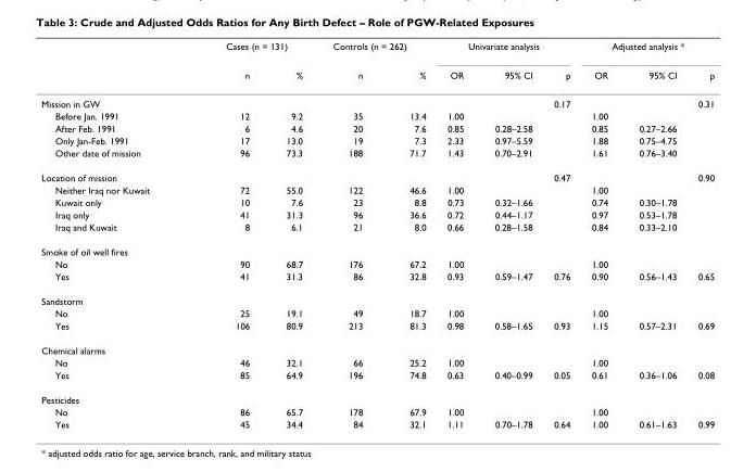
<table><thead><tr><td rowspan="2"></td><td colspan="2">Cases (n = 131)</td><td colspan="2">Controls (n = 262)</td><td colspan="3">Univariate analysis</td><td colspan="3">Adjusted analysis *</td></tr><tr><td>n</td><td>%</td><td>n</td><td>%</td><td>OR</td><td>95% CI</td><td>p</td><td>OR</td><td>95% CI</td><td>p</td></tr></thead><tbody><tr><td>Mission in GW</td><td></td><td></td><td></td><td></td><td></td><td></td><td>0.17</td><td></td><td></td><td>0.31</td></tr><tr><td>Before Jan. 1991</td><td>12</td><td>9.2</td><td>35</td><td>13.4</td><td>1.00</td><td></td><td></td><td>1.00</td><td></td><td></td></tr><tr><td>After Feb. 1991</td><td>6</td><td>4.6</td><td>20</td><td>7.6</td><td>0.85</td><td>0.28–2.58</td><td></td><td>0.85</td><td>0.27–2.66</td><td></td></tr><tr><td>Only Jan-Feb. 1991</td><td>17</td><td>13.0</td><td>19</td><td>7.3</td><td>2.33</td><td>0.97–5.59</td><td></td><td>1.88</td><td>0.75–4.75</td><td></td></tr><tr><td>Other date of mission</td><td>96</td><td>73.3</td><td>188</td><td>71.7</td><td>1.43</td><td>0.70–2.91</td><td></td><td>1.61</td><td>0.76–3.40</td><td></td></tr><tr><td>Location of mission</td><td></td><td></td><td></td><td></td><td></td><td></td><td>0.47</td><td></td><td></td><td>0.90</td></tr><tr><td>Neither Iraq nor Kuwait</td><td>72</td><td>55.0</td><td>122</td><td>46.6</td><td>1.00</td><td></td><td></td><td>1.00</td><td></td><td></td></tr><tr><td>Kuwait only</td><td>10</td><td>7.6</td><td>23</td><td>8.8</td><td>0.73</td><td>0.32–1.66</td><td></td><td>0.74</td><td>0.30–1.78</td><td></td></tr><tr><td>Iraq only</td><td>41</td><td>31.3</td><td>96</td><td>36.6</td><td>0.72</td><td>0.44–1.17</td><td></td><td>0.97</td><td>0.53–1.78</td><td></td></tr><tr><td>Iraq and Kuwait</td><td>8</td><td>6.1</td><td>21</td><td>8.0</td><td>0.66</td><td>0.28–1.58</td><td></td><td>0.84</td><td>0.33–2.10</td><td></td></tr><tr><td colspan="11">Smoke of oil well fires</td></tr><tr><td>No</td><td>90</td><td>68.7</td><td>176</td><td>67.2</td><td>1.00</td><td></td><td></td><td>1.00</td><td></td><td></td></tr><tr><td>Yes</td><td>41</td><td>31.3</td><td>86</td><td>32.8</td><td>0.93</td><td>0.59–1.47</td><td>0.76</td><td>0.90</td><td>0.56–1.43</td><td>0.65</td></tr><tr><td colspan="11">Sandstorm</td></tr><tr><td>No</td><td>25</td><td>19.1</td><td>49</td><td>18.7</td><td>1.00</td><td></td><td></td><td>1.00</td><td></td><td></td></tr><tr><td>Yes</td><td>106</td><td>80.9</td><td>213</td><td>81.3</td><td>0.98</td><td>0.58–1.65</td><td>0.93</td><td>1.15</td><td>0.57–2.31</td><td>0.69</td></tr><tr><td colspan="11">Chemical alarms</td></tr><tr><td>No</td><td>46</td><td>32.1</td><td>66</td><td>25.2</td><td>1.00</td><td></td><td></td><td>1.00</td><td></td><td></td></tr><tr><td>Yes</td><td>85</td><td>64.9</td><td>196</td><td>74.8</td><td>0.63</td><td>0.40–0.99</td><td>0.05</td><td>0.61</td><td>0.36–1.06</td><td>0.08</td></tr><tr><td colspan="11">Pesticides</td></tr><tr><td>No</td><td>86</td><td>65.7</td><td>178</td><td>67.9</td><td>1.00</td><td></td><td></td><td>1.00</td><td></td><td></td></tr><tr><td>Yes</td><td>45</td><td>34.4</td><td>84</td><td>32.1</td><td>1.11</td><td>0.70–1.78</td><td>0.64</td><td>1.00</td><td>0.61–1.63</td><td>0.99</td></tr></tbody></table>